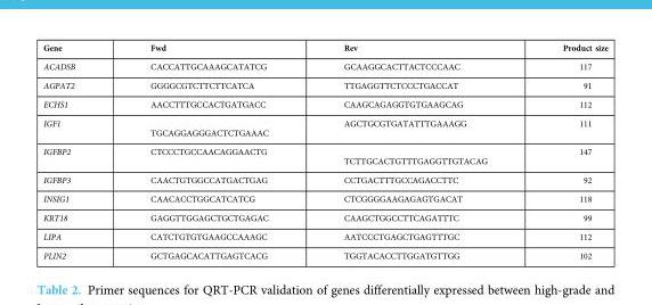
<table><tbody><tr><td>Gene</td><td>Fwd</td><td>Rev</td><td>Product size</td></tr><tr><td>ACADSB</td><td>CACCATTGCAAAGCATATCG</td><td>GCAAGGCACTTACTCCCAAC</td><td>117</td></tr><tr><td>AGPAT2</td><td>GGGGCGTCTTCTTCATCA</td><td>TTGAGGTTCTCCCTGACCAT</td><td>91</td></tr><tr><td>ECHS1</td><td>AACCTTTGCCACTGATGACC</td><td>CAAGCAGAGGTGTGAAGCAG</td><td>112</td></tr><tr><td>IGF1</td><td>TGCAGGAGGGACTCTGAAAC</td><td>AGCTGCGTGATATTTGAAAGG</td><td>111</td></tr><tr><td>IGFBP2</td><td>CTCCCTGCCAACAGGAACTG</td><td>TCTTGCACTGTTTGAGGTTGTACAG</td><td>147</td></tr><tr><td>IGFBP3</td><td>CAACTGTGGCCATGACTGAG</td><td>CCTGACTTTGCCAGACCTTC</td><td>92</td></tr><tr><td>INSIG1</td><td>CAACACCTGGCATCATCG</td><td>CTCGGGGAAGAGAGTGACAT</td><td>118</td></tr><tr><td>KRT18</td><td>GAGGTTGGAGCTGCTGAGAC</td><td>CAAGCTGGCCTTCAGATTTC</td><td>99</td></tr><tr><td>LIPA</td><td>CATCTGTGTGAAGCCAAAGC</td><td>AATCCCTGAGCTGAGTTTGC</td><td>112</td></tr><tr><td>PLIN2</td><td>GCTGAGCACATTGAGTCACG</td><td>TGGTACACCTTGGATGTTGG</td><td>102</td></tr></tbody></table>